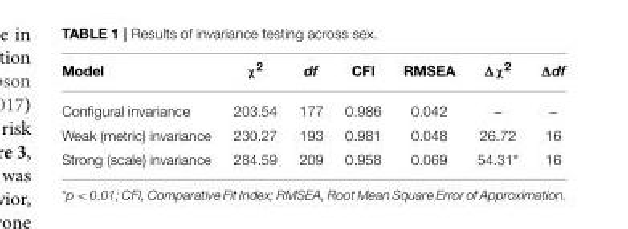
<table><thead><tr><td>Model</td><td>χ<sup>2</sup></td><td>df</td><td>CFI</td><td>RMSEA</td><td>Δχ<sup>2</sup></td><td>Δdf</td></tr></thead><tbody><tr><td>Configural invariance</td><td>203.54</td><td>177</td><td>0.986</td><td>0.042</td><td>–</td><td>–</td></tr><tr><td>Weak (metric) invariance</td><td>230.27</td><td>193</td><td>0.981</td><td>0.048</td><td>26.72</td><td>16</td></tr><tr><td>Strong (scale) invariance</td><td>284.59</td><td>209</td><td>0.958</td><td>0.069</td><td>54.31*</td><td>16</td></tr></tbody></table>